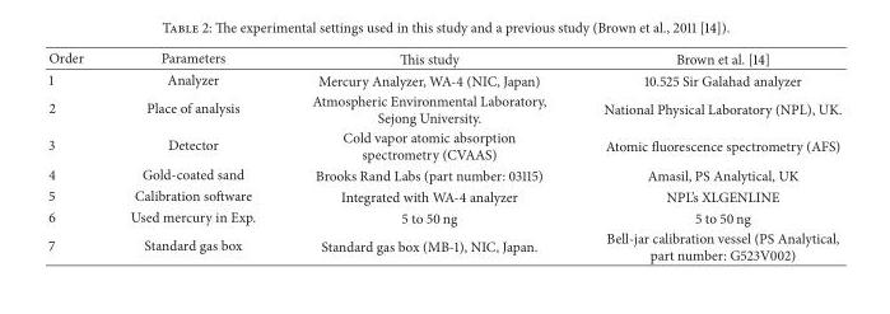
<table><thead><tr><td>Order</td><td>Parameters</td><td>This study</td><td>Brown et al. [14]</td></tr></thead><tbody><tr><td>1</td><td>Analyzer</td><td>Mercury Analyzer, WA-4 (NIC, Japan)</td><td>10.525 Sir Galahad analyzer</td></tr><tr><td>2</td><td>Place of analysis</td><td>Atmospheric Environmental Laboratory, Sejong University.</td><td>National Physical Laboratory (NPL), UK.</td></tr><tr><td>3</td><td>Detector</td><td>Cold vapor atomic absorption spectrometry (CVAAS)</td><td>Atomic fluorescence spectrometry (AFS)</td></tr><tr><td>4</td><td>Gold-coated sand</td><td>Brooks Rand Labs (part number: 03115)</td><td>Amasil, PS Analytical, UK</td></tr><tr><td>5</td><td>Calibration software</td><td>Integrated with WA-4 analyzer</td><td>NPL’s XLGENLINE</td></tr><tr><td>6</td><td>Used mercury in Exp.</td><td>5 to 50 ng</td><td>5 to 50 ng</td></tr><tr><td>7</td><td>Standard gas box</td><td>Standard gas box (MB-1), NIC, Japan.</td><td>Bell-jar calibration vessel (PS Analytical, part number: G523V002)</td></tr></tbody></table>